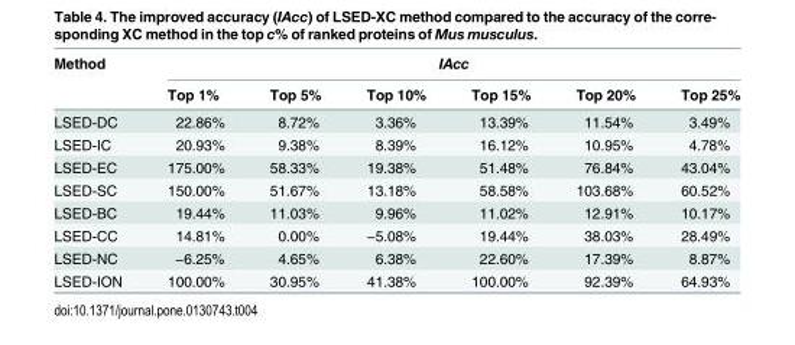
<table><thead><tr><td rowspan="2">Method</td><td colspan="6">IAcc</td></tr><tr><td>Top 1%</td><td>Top 5%</td><td>Top 10%</td><td>Top 15%</td><td>Top 20%</td><td>Top 25%</td></tr></thead><tbody><tr><td>LSED-DC</td><td>22.86%</td><td>8.72%</td><td>3.36%</td><td>13.39%</td><td>11.54%</td><td>3.49%</td></tr><tr><td>LSED-IC</td><td>20.93%</td><td>9.38%</td><td>8.39%</td><td>16.12%</td><td>10.95%</td><td>4.78%</td></tr><tr><td>LSED-EC</td><td>175.00%</td><td>58.33%</td><td>19.38%</td><td>51.48%</td><td>76.84%</td><td>43.04%</td></tr><tr><td>LSED-SC</td><td>150.00%</td><td>51.67%</td><td>13.18%</td><td>58.58%</td><td>103.68%</td><td>60.52%</td></tr><tr><td>LSED-BC</td><td>19.44%</td><td>11.03%</td><td>9.96%</td><td>11.02%</td><td>12.91%</td><td>10.17%</td></tr><tr><td>LSED-CC</td><td>14.81%</td><td>0.00%</td><td>−5.08%</td><td>19.44%</td><td>38.03%</td><td>28.49%</td></tr><tr><td>LSED-NC</td><td>−6.25%</td><td>4.65%</td><td>6.38%</td><td>22.60%</td><td>17.39%</td><td>8.87%</td></tr><tr><td>LSED-ION</td><td>100.00%</td><td>30.95%</td><td>41.38%</td><td>100.00%</td><td>92.39%</td><td>64.93%</td></tr></tbody></table>